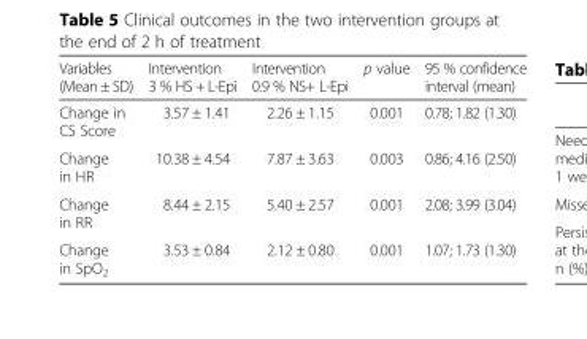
<table><thead><tr><td>Variables (Mean ± SD)</td><td>Intervention 3 % HS + L-Epi</td><td>Intervention 0.9 % NS+ L-Epi</td><td>p value</td><td>95 % confidence interval (mean)</td></tr></thead><tbody><tr><td>Change in CS Score</td><td>3.57 ± 1.41</td><td>2.26 ± 1.15</td><td>0.001</td><td>0.78; 1.82 (1.30)</td></tr><tr><td>Change in HR</td><td>10.38 ± 4.54</td><td>7.87 ± 3.63</td><td>0.003</td><td>0.86; 4.16 (2.50)</td></tr><tr><td>Change in RR</td><td>8.44 ± 2.15</td><td>5.40 ± 2.57</td><td>0.001</td><td>2.08; 3.99 (3.04)</td></tr><tr><td>Change in SpO<sub>2</sub></td><td>3.53 ± 0.84</td><td>2.12 ± 0.80</td><td>0.001</td><td>1.07; 1.73 (1.30)</td></tr></tbody></table>